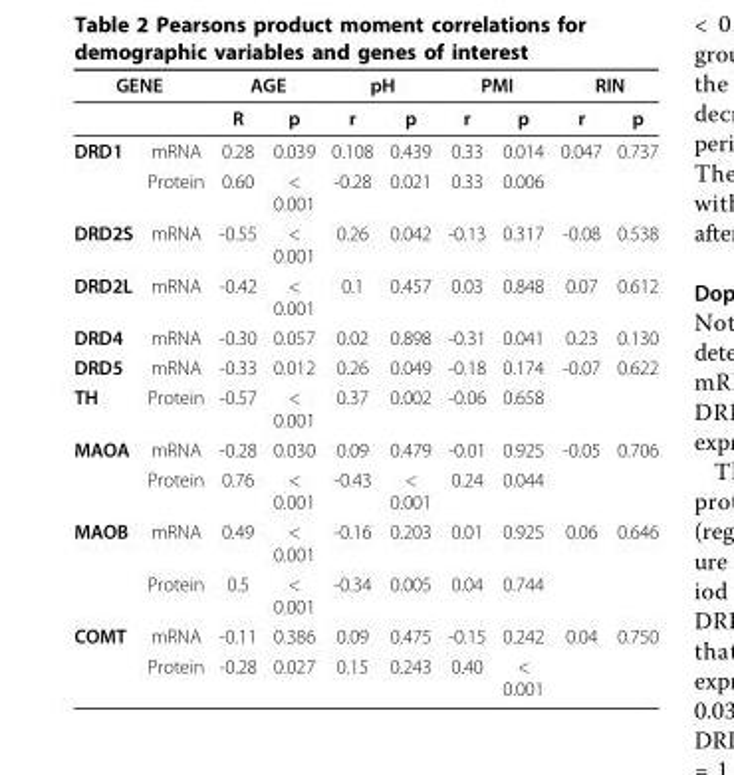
<table><thead><tr><td colspan="2">GENE</td><td colspan="2">AGE</td><td colspan="2">pH</td><td colspan="2">PMI</td><td colspan="2">RIN</td></tr><tr><td></td><td></td><td>R</td><td>p</td><td>r</td><td>p</td><td>r</td><td>p</td><td>r</td><td>p</td></tr></thead><tbody><tr><td rowspan="2">DRD1</td><td>mRNA</td><td>0.28</td><td>0.039</td><td>0.108</td><td>0.439</td><td>0.33</td><td>0.014</td><td>0.047</td><td>0.737</td></tr><tr><td>Protein</td><td>0.60</td><td>&lt; 0.001</td><td>-0.28</td><td>0.021</td><td>0.33</td><td>0.006</td><td></td><td></td></tr><tr><td>DRD2S</td><td>mRNA</td><td>-0.55</td><td>&lt; 0.001</td><td>0.26</td><td>0.042</td><td>-0.13</td><td>0.317</td><td>-0.08</td><td>0.538</td></tr><tr><td>DRD2L</td><td>mRNA</td><td>-0.42</td><td>&lt; 0.001</td><td>0.1</td><td>0.457</td><td>0.03</td><td>0.848</td><td>0.07</td><td>0.612</td></tr><tr><td>DRD4</td><td>mRNA</td><td>-0.30</td><td>0.057</td><td>0.02</td><td>0.898</td><td>-0.31</td><td>0.041</td><td>0.23</td><td>0.130</td></tr><tr><td>DRD5</td><td>mRNA</td><td>-0.33</td><td>0.012</td><td>0.26</td><td>0.049</td><td>-0.18</td><td>0.174</td><td>-0.07</td><td>0.622</td></tr><tr><td>TH</td><td>Protein</td><td>-0.57</td><td>&lt; 0.001</td><td>0.37</td><td>0.002</td><td>-0.06</td><td>0.658</td><td></td><td></td></tr><tr><td rowspan="2">MAOA</td><td>mRNA</td><td>-0.28</td><td>0.030</td><td>0.09</td><td>0.479</td><td>-0.01</td><td>0.925</td><td>-0.05</td><td>0.706</td></tr><tr><td>Protein</td><td>0.76</td><td>&lt; 0.001</td><td>-0.43</td><td>&lt; 0.001</td><td>0.24</td><td>0.044</td><td></td><td></td></tr><tr><td rowspan="2">MAOB</td><td>mRNA</td><td>0.49</td><td>&lt; 0.001</td><td>-0.16</td><td>0.203</td><td>0.01</td><td>0.925</td><td>0.06</td><td>0.646</td></tr><tr><td>Protein</td><td>0.5</td><td>&lt; 0.001</td><td>-0.34</td><td>0.005</td><td>0.04</td><td>0.744</td><td></td><td></td></tr><tr><td rowspan="2">COMT</td><td>mRNA</td><td>-0.11</td><td>0.386</td><td>0.09</td><td>0.475</td><td>-0.15</td><td>0.242</td><td>0.04</td><td>0.750</td></tr><tr><td>Protein</td><td>-0.28</td><td>0.027</td><td>0.15</td><td>0.243</td><td>0.40</td><td>&lt; 0.001</td><td></td><td></td></tr></tbody></table>